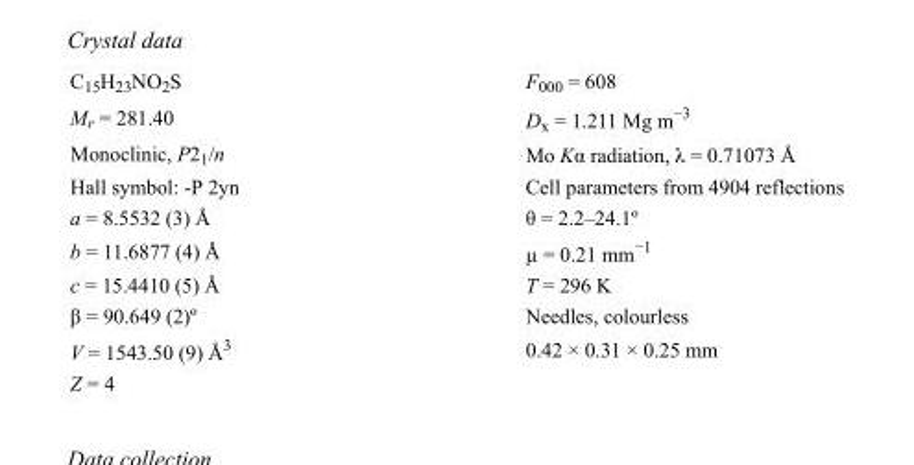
<table><tbody><tr><td>C<sub>15</sub>H<sub>23</sub>NO<sub>2</sub>S</td><td>F000 = 608</td></tr><tr><td>M<sub>r</sub> = 281.40</td><td>D<sub>x</sub> = 1.211 Mg m<sup>−3</sup></td></tr><tr><td>Monoclinic, P2<sub>1</sub>/n</td><td>Mo Kα radiation, λ = 0.71073 Å</td></tr><tr><td>Hall symbol: -P 2yn</td><td>Cell parameters from 4904 reflections</td></tr><tr><td>a = 8.5532 (3) Å</td><td>θ = 2.2–24.1º</td></tr><tr><td>b = 11.6877 (4) Å</td><td>µ = 0.21 mm<sup>−1</sup></td></tr><tr><td>c = 15.4410 (5) Å</td><td>T = 296 K</td></tr><tr><td>β = 90.649 (2)º</td><td>Needles, colourless</td></tr><tr><td>V = 1543.50 (9) Å<sup>3</sup></td><td>0.42 × 0.31 × 0.25 mm</td></tr><tr><td>Z = 4</td><td></td></tr></tbody></table>